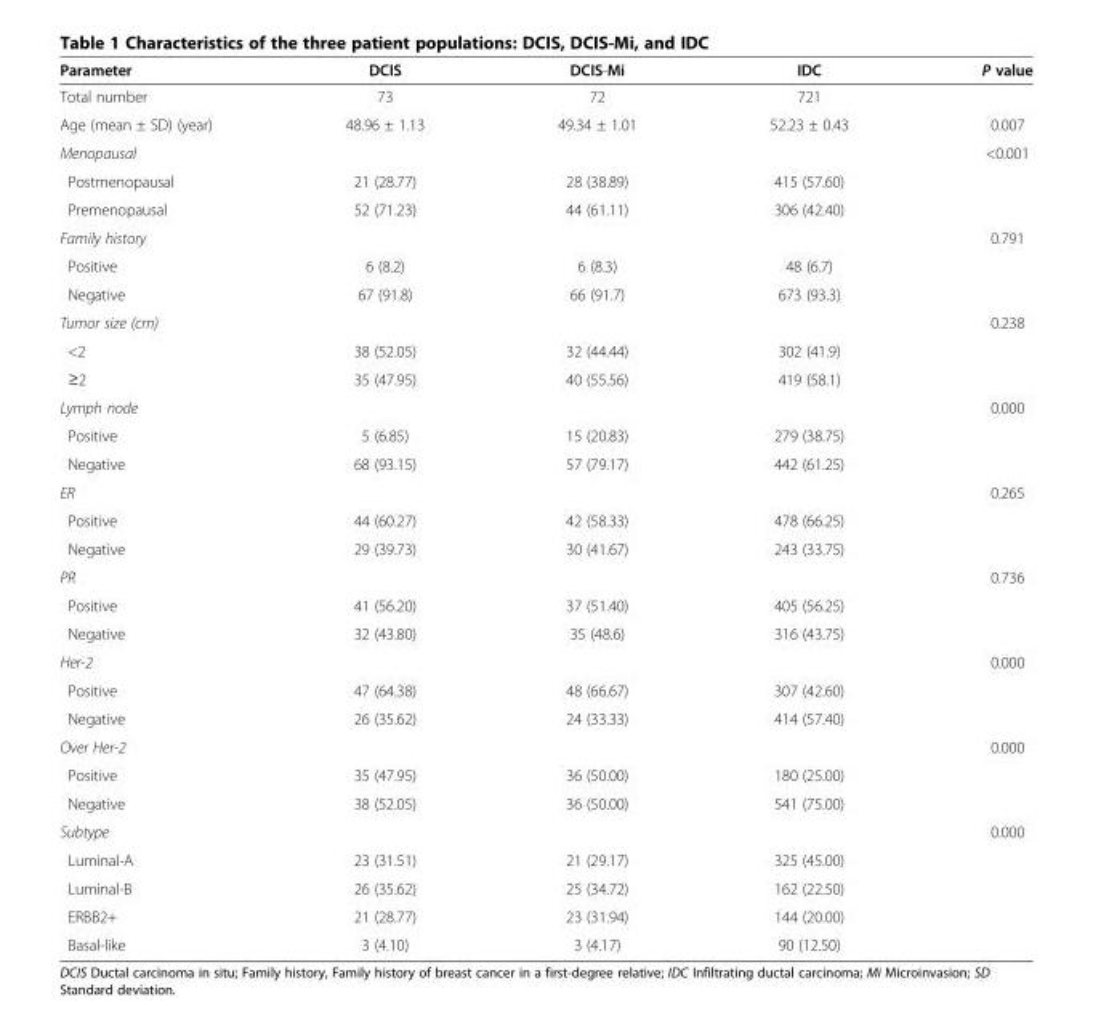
<table><thead><tr><td>Parameter</td><td>DCIS</td><td>DCIS-Mi</td><td>IDC</td><td>P value</td></tr></thead><tbody><tr><td>Total number</td><td>73</td><td>72</td><td>721</td><td></td></tr><tr><td>Age (mean ± SD) (year)</td><td>48.96 ± 1.13</td><td>49.34 ± 1.01</td><td>52.23 ± 0.43</td><td>0.007</td></tr><tr><td>Menopausal</td><td></td><td></td><td></td><td>&lt;0.001</td></tr><tr><td>Postmenopausal</td><td>21 (28.77)</td><td>28 (38.89)</td><td>415 (57.60)</td><td></td></tr><tr><td>Premenopausal</td><td>52 (71.23)</td><td>44 (61.11)</td><td>306 (42.40)</td><td></td></tr><tr><td>Family history</td><td></td><td></td><td></td><td>0.791</td></tr><tr><td>Positive</td><td>6 (8.2)</td><td>6 (8.3)</td><td>48 (6.7)</td><td></td></tr><tr><td>Negative</td><td>67 (91.8)</td><td>66 (91.7)</td><td>673 (93.3)</td><td></td></tr><tr><td>Tumor size (cm)</td><td></td><td></td><td></td><td>0.238</td></tr><tr><td>&lt;2</td><td>38 (52.05)</td><td>32 (44.44)</td><td>302 (41.9)</td><td></td></tr><tr><td>≥2</td><td>35 (47.95)</td><td>40 (55.56)</td><td>419 (58.1)</td><td></td></tr><tr><td>Lymph node</td><td></td><td></td><td></td><td>0.000</td></tr><tr><td>Positive</td><td>5 (6.85)</td><td>15 (20.83)</td><td>279 (38.75)</td><td></td></tr><tr><td>Negative</td><td>68 (93.15)</td><td>57 (79.17)</td><td>442 (61.25)</td><td></td></tr><tr><td>ER</td><td></td><td></td><td></td><td>0.265</td></tr><tr><td>Positive</td><td>44 (60.27)</td><td>42 (58.33)</td><td>478 (66.25)</td><td></td></tr><tr><td>Negative</td><td>29 (39.73)</td><td>30 (41.67)</td><td>243 (33.75)</td><td></td></tr><tr><td>PR</td><td></td><td></td><td></td><td>0.736</td></tr><tr><td>Positive</td><td>41 (56.20)</td><td>37 (51.40)</td><td>405 (56.25)</td><td></td></tr><tr><td>Negative</td><td>32 (43.80)</td><td>35 (48.6)</td><td>316 (43.75)</td><td></td></tr><tr><td>Her-2</td><td></td><td></td><td></td><td>0.000</td></tr><tr><td>Positive</td><td>47 (64.38)</td><td>48 (66.67)</td><td>307 (42.60)</td><td></td></tr><tr><td>Negative</td><td>26 (35.62)</td><td>24 (33.33)</td><td>414 (57.40)</td><td></td></tr><tr><td>Over Her-2</td><td></td><td></td><td></td><td>0.000</td></tr><tr><td>Positive</td><td>35 (47.95)</td><td>36 (50.00)</td><td>180 (25.00)</td><td></td></tr><tr><td>Negative</td><td>38 (52.05)</td><td>36 (50.00)</td><td>541 (75.00)</td><td></td></tr><tr><td>Subtype</td><td></td><td></td><td></td><td>0.000</td></tr><tr><td>Luminal-A</td><td>23 (31.51)</td><td>21 (29.17)</td><td>325 (45.00)</td><td></td></tr><tr><td>Luminal-B</td><td>26 (35.62)</td><td>25 (34.72)</td><td>162 (22.50)</td><td></td></tr><tr><td>ERBB2+</td><td>21 (28.77)</td><td>23 (31.94)</td><td>144 (20.00)</td><td></td></tr><tr><td>Basal-like</td><td>3 (4.10)</td><td>3 (4.17)</td><td>90 (12.50)</td><td></td></tr></tbody></table>